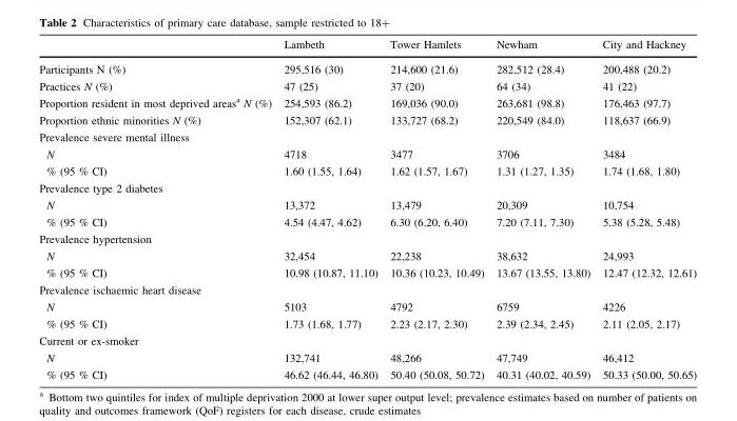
<table><thead><tr><td></td><td>Lambeth</td><td>Tower Hamlets</td><td>Newham</td><td>City and Hackney</td></tr></thead><tbody><tr><td>Participants N (%)</td><td>295,516 (30)</td><td>214,600 (21.6)</td><td>282,512 (28.4)</td><td>200,488 (20.2)</td></tr><tr><td>Practices N (%)</td><td>47 (25)</td><td>37 (20)</td><td>64 (34)</td><td>41 (22)</td></tr><tr><td>Proportion resident in most deprived areas<sup>a</sup> N (%)</td><td>254,593 (86.2)</td><td>169,036 (90.0)</td><td>263,681 (98.8)</td><td>176,463 (97.7)</td></tr><tr><td>Proportion ethnic minorities N (%)</td><td>152,307 (62.1)</td><td>133,727 (68.2)</td><td>220,549 (84.0)</td><td>118,637 (66.9)</td></tr><tr><td colspan="5">Prevalence severe mental illness</td></tr><tr><td>N</td><td>4718</td><td>3477</td><td>3706</td><td>3484</td></tr><tr><td>% (95 % CI)</td><td>1.60 (1.55, 1.64)</td><td>1.62 (1.57, 1.67)</td><td>1.31 (1.27, 1.35)</td><td>1.74 (1.68, 1.80)</td></tr><tr><td colspan="5">Prevalence type 2 diabetes</td></tr><tr><td>N</td><td>13,372</td><td>13,479</td><td>20,309</td><td>10,754</td></tr><tr><td>% (95 % CI)</td><td>4.54 (4.47, 4.62)</td><td>6.30 (6.20, 6.40)</td><td>7.20 (7.11, 7.30)</td><td>5.38 (5.28, 5.48)</td></tr><tr><td colspan="5">Prevalence hypertension</td></tr><tr><td>N</td><td>32,454</td><td>22,238</td><td>38,632</td><td>24,993</td></tr><tr><td>% (95 % CI)</td><td>10.98 (10.87, 11.10)</td><td>10.36 (10.23, 10.49)</td><td>13.67 (13.55, 13.80)</td><td>12.47 (12.32, 12.61)</td></tr><tr><td colspan="5">Prevalence ischaemic heart disease</td></tr><tr><td>N</td><td>5103</td><td>4792</td><td>6759</td><td>4226</td></tr><tr><td>% (95 % CI)</td><td>1.73 (1.68, 1.77)</td><td>2.23 (2.17, 2.30)</td><td>2.39 (2.34, 2.45)</td><td>2.11 (2.05, 2.17)</td></tr><tr><td colspan="5">Current or ex-smoker</td></tr><tr><td>N</td><td>132,741</td><td>48,266</td><td>47,749</td><td>46,412</td></tr><tr><td>% (95 % CI)</td><td>46.62 (46.44, 46.80)</td><td>50.40 (50.08, 50.72)</td><td>40.31 (40.02, 40.59)</td><td>50.33 (50.00, 50.65)</td></tr></tbody></table>